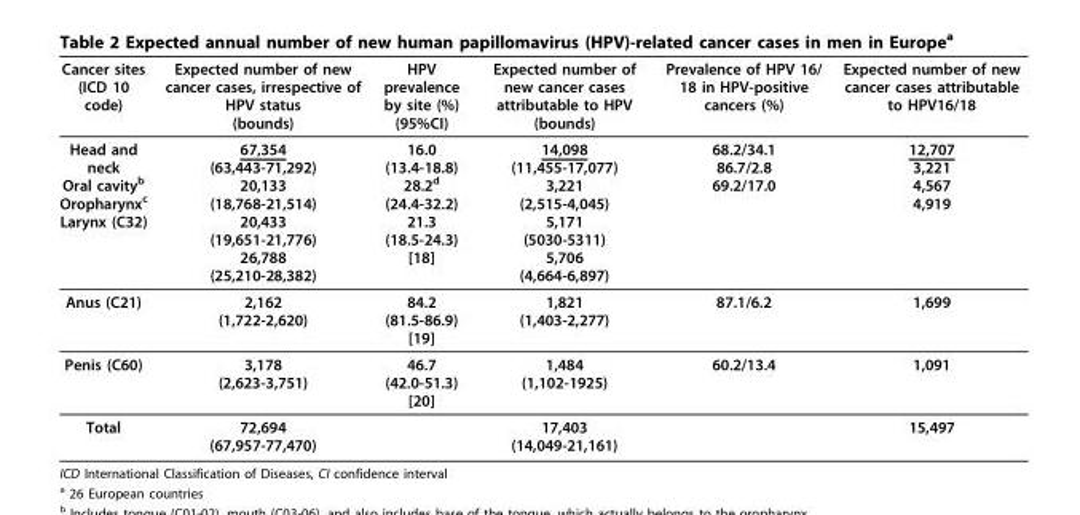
<table><thead><tr><td>Cancer sites (ICD 10 code)</td><td>Expected number of new cancer cases, irrespective of HPV status (bounds)</td><td>HPV prevalence by site (%) (95%CI)</td><td>Expected number of new cancer cases attributable to HPV (bounds)</td><td>Prevalence of HPV 16/ 18 in HPV-positive cancers (%)</td><td>Expected number of new cancer cases attributable to HPV16/18</td></tr></thead><tbody><tr><td>Head and neck Oral cavity<sup>b</sup> Oropharynx<sup>c</sup> Larynx (C32)</td><td>67,354 (63,443-71,292) 20,133 (18,768-21,514) 20,433 (19,651-21,776) 26,788 (25,210-28,382)</td><td>16.0 (13.4-18.8) 28.2<sup>d</sup> (24.4-32.2) 21.3 (18.5-24.3) [18]</td><td>14,098 (11,455-17,077) 3,221 (2,515-4,045) 5,171 (5030-5311) 5,706 (4,664-6,897)</td><td>68.2/34.1 86.7/2.8 69.2/17.0</td><td>12,707 3,221 4,567 4,919</td></tr><tr><td>Anus (C21)</td><td>2,162 (1,722-2,620)</td><td>84.2 (81.5-86.9) [19]</td><td>1,821 (1,403-2,277)</td><td>87.1/6.2</td><td>1,699</td></tr><tr><td>Penis (C60)</td><td>3,178 (2,623-3,751)</td><td>46.7 (42.0-51.3) [20]</td><td>1,484 (1,102-1925)</td><td>60.2/13.4</td><td>1,091</td></tr><tr><td>Total</td><td>72,694 (67,957-77,470)</td><td></td><td>17,403 (14,049-21,161)</td><td></td><td>15,497</td></tr></tbody></table>